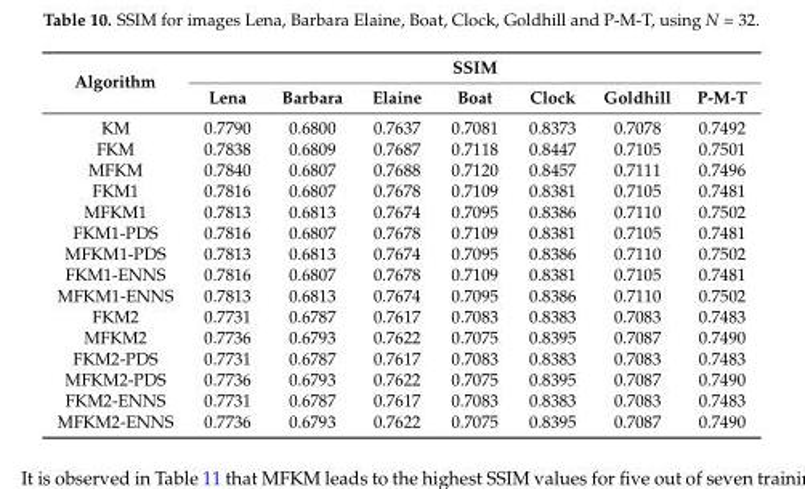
<table><thead><tr><td rowspan="2">Algorithm</td><td colspan="7">SSIM</td></tr><tr><td>Lena</td><td>Barbara</td><td>Elaine</td><td>Boat</td><td>Clock</td><td>Goldhill</td><td>P-M-T</td></tr></thead><tbody><tr><td>KM</td><td>0.7790</td><td>0.6800</td><td>0.7637</td><td>0.7081</td><td>0.8373</td><td>0.7078</td><td>0.7492</td></tr><tr><td>FKM</td><td>0.7838</td><td>0.6809</td><td>0.7687</td><td>0.7118</td><td>0.8447</td><td>0.7105</td><td>0.7501</td></tr><tr><td>MFKM</td><td>0.7840</td><td>0.6807</td><td>0.7688</td><td>0.7120</td><td>0.8457</td><td>0.7111</td><td>0.7496</td></tr><tr><td>FKM1</td><td>0.7816</td><td>0.6807</td><td>0.7678</td><td>0.7109</td><td>0.8381</td><td>0.7105</td><td>0.7481</td></tr><tr><td>MFKM1</td><td>0.7813</td><td>0.6813</td><td>0.7674</td><td>0.7095</td><td>0.8386</td><td>0.7110</td><td>0.7502</td></tr><tr><td>FKM1-PDS</td><td>0.7816</td><td>0.6807</td><td>0.7678</td><td>0.7109</td><td>0.8381</td><td>0.7105</td><td>0.7481</td></tr><tr><td>MFKM1-PDS</td><td>0.7813</td><td>0.6813</td><td>0.7674</td><td>0.7095</td><td>0.8386</td><td>0.7110</td><td>0.7502</td></tr><tr><td>FKM1-ENNS</td><td>0.7816</td><td>0.6807</td><td>0.7678</td><td>0.7109</td><td>0.8381</td><td>0.7105</td><td>0.7481</td></tr><tr><td>MFKM1-ENNS</td><td>0.7813</td><td>0.6813</td><td>0.7674</td><td>0.7095</td><td>0.8386</td><td>0.7110</td><td>0.7502</td></tr><tr><td>FKM2</td><td>0.7731</td><td>0.6787</td><td>0.7617</td><td>0.7083</td><td>0.8383</td><td>0.7083</td><td>0.7483</td></tr><tr><td>MFKM2</td><td>0.7736</td><td>0.6793</td><td>0.7622</td><td>0.7075</td><td>0.8395</td><td>0.7087</td><td>0.7490</td></tr><tr><td>FKM2-PDS</td><td>0.7731</td><td>0.6787</td><td>0.7617</td><td>0.7083</td><td>0.8383</td><td>0.7083</td><td>0.7483</td></tr><tr><td>MFKM2-PDS</td><td>0.7736</td><td>0.6793</td><td>0.7622</td><td>0.7075</td><td>0.8395</td><td>0.7087</td><td>0.7490</td></tr><tr><td>FKM2-ENNS</td><td>0.7731</td><td>0.6787</td><td>0.7617</td><td>0.7083</td><td>0.8383</td><td>0.7083</td><td>0.7483</td></tr><tr><td>MFKM2-ENNS</td><td>0.7736</td><td>0.6793</td><td>0.7622</td><td>0.7075</td><td>0.8395</td><td>0.7087</td><td>0.7490</td></tr></tbody></table>